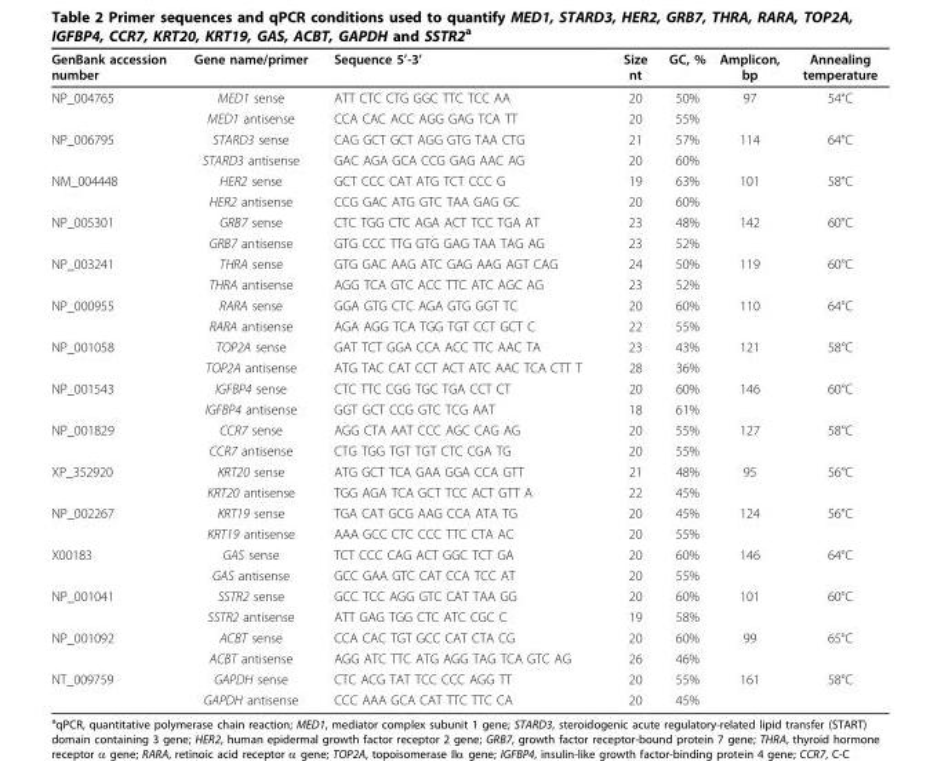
<table><thead><tr><td>GenBank accession number</td><td>Gene name/primer</td><td>Sequence 5’-3’</td><td>Size nt</td><td>GC, %</td><td>Amplicon, bp</td><td>Annealing temperature</td></tr></thead><tbody><tr><td rowspan="2">NP_004765</td><td>MED1 sense</td><td>ATT CTC CTG GGC TTC TCC AA</td><td>20</td><td>50%</td><td>97</td><td>54°C</td></tr><tr><td>MED1 antisense</td><td>CCA CAC ACC AGG GAG TCA TT</td><td>20</td><td>55%</td><td></td><td></td></tr><tr><td rowspan="2">NP_006795</td><td>STARD3 sense</td><td>CAG GCT GCT AGG GTG TAA CTG</td><td>21</td><td>57%</td><td>114</td><td>64°C</td></tr><tr><td>STARD3 antisense</td><td>GAC AGA GCA CCG GAG AAC AG</td><td>20</td><td>60%</td><td></td><td></td></tr><tr><td rowspan="2">NM_004448</td><td>HER2 sense</td><td>GCT CCC CAT ATG TCT CCC G</td><td>19</td><td>63%</td><td>101</td><td>58°C</td></tr><tr><td>HER2 antisense</td><td>CCG GAC ATG GTC TAA GAG GC</td><td>20</td><td>60%</td><td></td><td></td></tr><tr><td rowspan="2">NP_005301</td><td>GRB7 sense</td><td>CTC TGG CTC AGA ACT TCC TGA AT</td><td>23</td><td>48%</td><td>142</td><td>60°C</td></tr><tr><td>GRB7 antisense</td><td>GTG CCC TTG GTG GAG TAA TAG AG</td><td>23</td><td>52%</td><td></td><td></td></tr><tr><td rowspan="2">NP_003241</td><td>THRA sense</td><td>GTG GAC AAG ATC GAG AAG AGT CAG</td><td>24</td><td>50%</td><td>119</td><td>60°C</td></tr><tr><td>THRA antisense</td><td>AGG TCA GTC ACC TTC ATC AGC AG</td><td>23</td><td>52%</td><td></td><td></td></tr><tr><td rowspan="2">NP_000955</td><td>RARA sense</td><td>GGA GTG CTC AGA GTG GGT TC</td><td>20</td><td>60%</td><td>110</td><td>64°C</td></tr><tr><td>RARA antisense</td><td>AGA AGG TCA TGG TGT CCT GCT C</td><td>22</td><td>55%</td><td></td><td></td></tr><tr><td rowspan="2">NP_001058</td><td>TOP2A sense</td><td>GAT TCT GGA CCA ACC TTC AAC TA</td><td>23</td><td>43%</td><td>121</td><td>58°C</td></tr><tr><td>TOP2A antisense</td><td>ATG TAC CAT CCT ACT ATC AAC TCA CTT T</td><td>28</td><td>36%</td><td></td><td></td></tr><tr><td rowspan="2">NP_001543</td><td>IGFBP4 sense</td><td>CTC TTC CGG TGC TGA CCT CT</td><td>20</td><td>60%</td><td>146</td><td>60°C</td></tr><tr><td>IGFBP4 antisense</td><td>GGT GCT CCG GTC TCG AAT</td><td>18</td><td>61%</td><td></td><td></td></tr><tr><td rowspan="2">NP_001829</td><td>CCR7 sense</td><td>AGG CTA AAT CCC AGC CAG AG</td><td>20</td><td>55%</td><td>127</td><td>58°C</td></tr><tr><td>CCR7 antisense</td><td>CTG TGG TGT TGT CTC CGA TG</td><td>20</td><td>55%</td><td></td><td></td></tr><tr><td rowspan="2">XP_352920</td><td>KRT20 sense</td><td>ATG GCT TCA GAA GGA CCA GTT</td><td>21</td><td>48%</td><td>95</td><td>56°C</td></tr><tr><td>KRT20 antisense</td><td>TGG AGA TCA GCT TCC ACT GTT A</td><td>22</td><td>45%</td><td></td><td></td></tr><tr><td rowspan="2">NP_002267</td><td>KRT19 sense</td><td>TGA CAT GCG AAG CCA ATA TG</td><td>20</td><td>45%</td><td>124</td><td>56°C</td></tr><tr><td>KRT19 antisense</td><td>AAA GCC CTC CCC TTC CTA AC</td><td>20</td><td>55%</td><td></td><td></td></tr><tr><td rowspan="2">X00183</td><td>GAS sense</td><td>TCT CCC CAG ACT GGC TCT GA</td><td>20</td><td>60%</td><td>146</td><td>64°C</td></tr><tr><td>GAS antisense</td><td>GCC GAA GTC CAT CCA TCC AT</td><td>20</td><td>55%</td><td></td><td></td></tr><tr><td rowspan="2">NP_001041</td><td>SSTR2 sense</td><td>GCC TCC AGG GTC CAT TAA GG</td><td>20</td><td>60%</td><td>101</td><td>60°C</td></tr><tr><td>SSTR2 antisense</td><td>ATT GAG TGG CTC ATC CGC C</td><td>19</td><td>58%</td><td></td><td></td></tr><tr><td rowspan="2">NP_001092</td><td>ACBT sense</td><td>CCA CAC TGT GCC CAT CTA CG</td><td>20</td><td>60%</td><td>99</td><td>65°C</td></tr><tr><td>ACBT antisense</td><td>AGG ATC TTC ATG AGG TAG TCA GTC AG</td><td>26</td><td>46%</td><td></td><td></td></tr><tr><td rowspan="2">NT_009759</td><td>GAPDH sense</td><td>CTC ACG TAT TCC CCC AGG TT</td><td>20</td><td>55%</td><td>161</td><td>58°C</td></tr><tr><td>GAPDH antisense</td><td>CCC AAA GCA CAT TTC TTC CA</td><td>20</td><td>45%</td><td></td><td></td></tr></tbody></table>